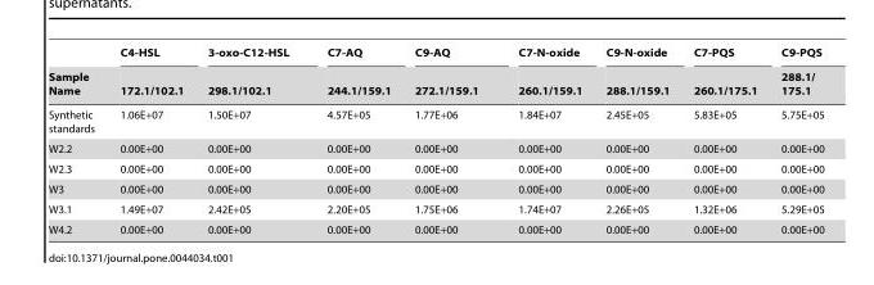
<table><thead><tr><td rowspan="2">Sample Name</td><td rowspan="2">C4-HSL 172.1/102.1</td><td rowspan="2">3-oxo-C12-HSL 298.1/102.1</td><td rowspan="2">C7-AQ 244.1/159.1</td><td rowspan="2">C9-AQ 272.1/159.1</td><td rowspan="2">C7-N-oxide 260.1/159.1</td><td rowspan="2">C9-N-oxide 288.1/159.1</td><td rowspan="2">C7-PQS 260.1/175.1</td><td rowspan="2">C9-PQS 288.1/ 175.1</td></tr><tr></tr></thead><tbody><tr><td>Synthetic standards</td><td>1.06E+07</td><td>1.50E+07</td><td>4.57E+05</td><td>1.77E+06</td><td>1.84E+07</td><td>2.45E+05</td><td>5.83E+05</td><td>5.75E+05</td></tr><tr><td>W2.2</td><td>0.00E+00</td><td>0.00E+00</td><td>0.00E+00</td><td>0.00E+00</td><td>0.00E+00</td><td>0.00E+00</td><td>0.00E+00</td><td>0.00E+00</td></tr><tr><td>W2.3</td><td>0.00E+00</td><td>0.00E+00</td><td>0.00E+00</td><td>0.00E+00</td><td>0.00E+00</td><td>0.00E+00</td><td>0.00E+00</td><td>0.00E+00</td></tr><tr><td>W3</td><td>0.00E+00</td><td>0.00E+00</td><td>0.00E+00</td><td>0.00E+00</td><td>0.00E+00</td><td>0.00E+00</td><td>0.00E+00</td><td>0.00E+00</td></tr><tr><td>W3.1</td><td>1.49E+07</td><td>2.42E+05</td><td>2.20E+05</td><td>1.75E+06</td><td>1.74E+07</td><td>2.26E+05</td><td>1.32E+06</td><td>5.29E+05</td></tr><tr><td>W4.2</td><td>0.00E+00</td><td>0.00E+00</td><td>0.00E+00</td><td>0.00E+00</td><td>0.00E+00</td><td>0.00E+00</td><td>0.00E+00</td><td>0.00E+00</td></tr></tbody></table>